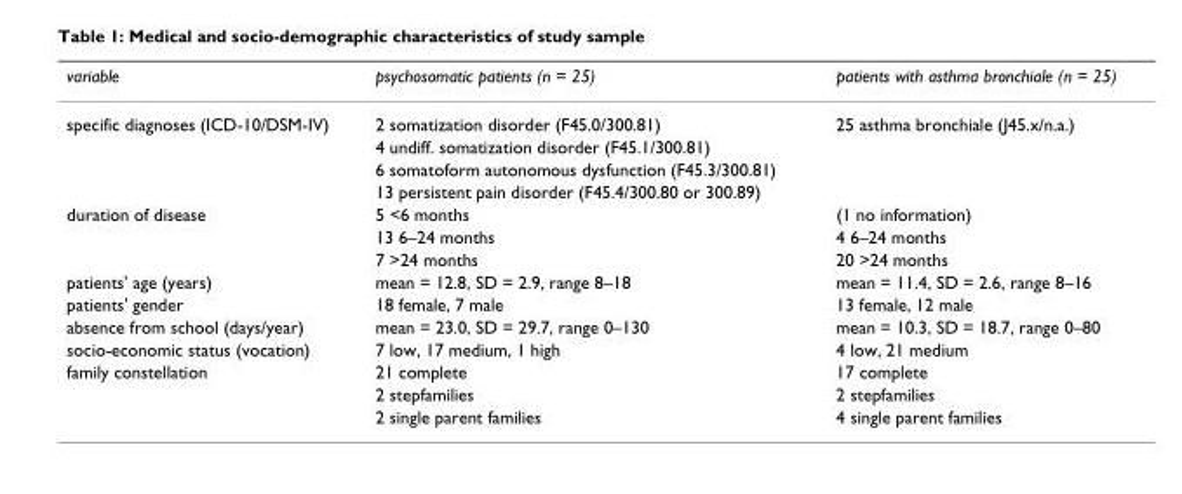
<table><thead><tr><td>variable</td><td>psychosomatic patients (n = 25)</td><td>patients with asthma bronchiale (n = 25)</td></tr></thead><tbody><tr><td rowspan="4">specific diagnoses (ICD-10/DSM-IV)</td><td>2 somatization disorder (F45.0/300.81)</td><td>25 asthma bronchiale (J45.x/n.a.)</td></tr><tr><td>4 undiff. somatization disorder (F45.1/300.81)</td><td></td></tr><tr><td>6 somatoform autonomous dysfunction (F45.3/300.81)</td><td></td></tr><tr><td>13 persistent pain disorder (F45.4/300.80 or 300.89)</td><td></td></tr><tr><td rowspan="3">duration of disease</td><td>5 &lt;6 months</td><td>(1 no information)</td></tr><tr><td>13 6–24 months</td><td>4 6–24 months</td></tr><tr><td>7 &gt;24 months</td><td>20 &gt;24 months</td></tr><tr><td>patients&#x27; age (years)</td><td>mean = 12.8, SD = 2.9, range 8–18</td><td>mean = 11.4, SD = 2.6, range 8–16</td></tr><tr><td>patients&#x27; gender</td><td>18 female, 7 male</td><td>13 female, 12 male</td></tr><tr><td>absence from school (days/year)</td><td>mean = 23.0, SD = 29.7, range 0–130</td><td>mean = 10.3, SD = 18.7, range 0–80</td></tr><tr><td>socio-economic status (vocation)</td><td>7 low, 17 medium, 1 high</td><td>4 low, 21 medium</td></tr><tr><td rowspan="3">family constellation</td><td>21 complete</td><td>17 complete</td></tr><tr><td>2 stepfamilies</td><td>2 stepfamilies</td></tr><tr><td>2 single parent families</td><td>4 single parent families</td></tr></tbody></table>